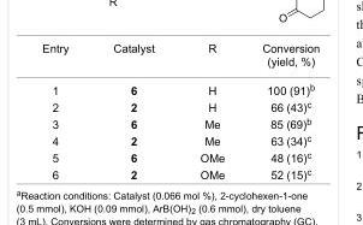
<table><tbody><tr><td>Entry</td><td>Catalyst</td><td>R</td><td>Conversion (yield, %)</td></tr><tr><td>1</td><td>6</td><td>H</td><td>100 (91)<sup>b</sup></td></tr><tr><td>2</td><td>2</td><td>H</td><td>66 (43)<sup>c</sup></td></tr><tr><td>3</td><td>6</td><td>Me</td><td>85 (69)<sup>b</sup></td></tr><tr><td>4</td><td>2</td><td>Me</td><td>63 (34)<sup>c</sup></td></tr><tr><td>5</td><td>6</td><td>OMe</td><td>48 (16)<sup>c</sup></td></tr><tr><td>6</td><td>2</td><td>OMe</td><td>52 (15)<sup>c</sup></td></tr></tbody></table>